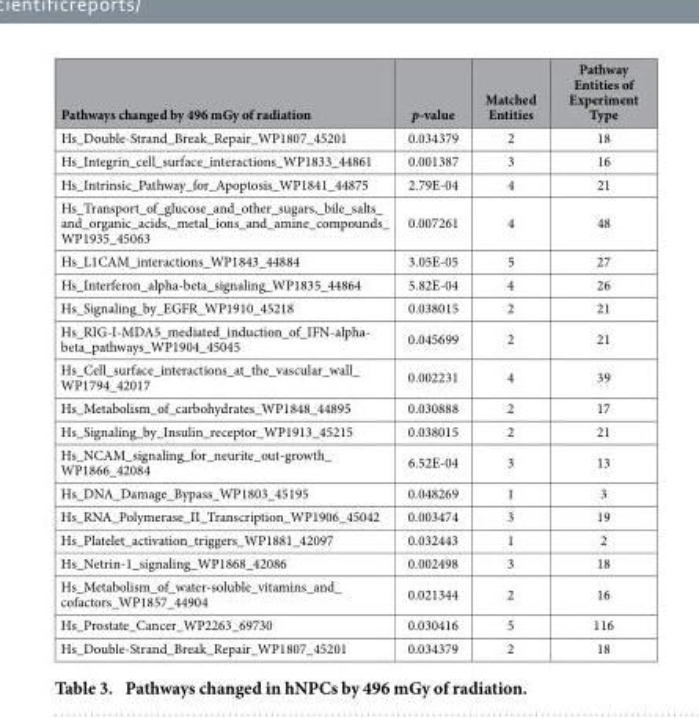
<table><thead><tr><td>Pathways changed by 496 mGy of radiation</td><td>p-value</td><td>Matched Entities</td><td>Pathway Entities of Experiment Type</td></tr></thead><tbody><tr><td>Hs_Double-Strand_Break_Repair_WP1807_45201</td><td>0.034379</td><td>2</td><td>18</td></tr><tr><td>Hs_Integrin_cell_surface_interactions_WP1833_44861</td><td>0.001387</td><td>3</td><td>16</td></tr><tr><td>Hs_Intrinsic_Pathway_for_Apoptosis_WP1841_44875</td><td>2.79E-04</td><td>4</td><td>21</td></tr><tr><td>Hs_Transport_of_glucose_and_other_sugars,_bile_salts_ and_organic_acids,_metal_ions_and_amine_compounds_ WP1935_45063</td><td>0.007261</td><td>4</td><td>48</td></tr><tr><td>Hs_L1CAM_interactions_WP1843_44884</td><td>3.05E-05</td><td>5</td><td>27</td></tr><tr><td>Hs_Interferon_alpha-beta_signaling_WP1835_44864</td><td>5.82E-04</td><td>4</td><td>26</td></tr><tr><td>Hs_Signaling_by_EGFR_WP1910_45218</td><td>0.038015</td><td>2</td><td>21</td></tr><tr><td>Hs_RIG-I-MDA5_mediated_induction_of_IFN-alpha- beta_pathways_WP1904_45045</td><td>0.045699</td><td>2</td><td>21</td></tr><tr><td>Hs_Cell_surface_interactions_at_the_vascular_wall_ WP1794_42017</td><td>0.002231</td><td>4</td><td>39</td></tr><tr><td>Hs_Metabolism_of_carbohydrates_WP1848_44895</td><td>0.030888</td><td>2</td><td>17</td></tr><tr><td>Hs_Signaling_by_Insulin_receptor_WP1913_45215</td><td>0.038015</td><td>2</td><td>21</td></tr><tr><td>Hs_NCAM_signaling_for_neurite_out-growth_ WP1866_42084</td><td>6.52E-04</td><td>3</td><td>13</td></tr><tr><td>Hs_DNA_Damage_Bypass_WP1803_45195</td><td>0.048269</td><td>1</td><td>3</td></tr><tr><td>Hs_RNA_Polymerase_II_Transcription_WP1906_45042</td><td>0.003474</td><td>3</td><td>19</td></tr><tr><td>Hs_Platelet_activation_triggers_WP1881_42097</td><td>0.032443</td><td>1</td><td>2</td></tr><tr><td>Hs_Netrin-1_signaling_WP1868_42086</td><td>0.002498</td><td>3</td><td>18</td></tr><tr><td>Hs_Metabolism_of_water-soluble_vitamins_and_ cofactors_WP1857_44904</td><td>0.021344</td><td>2</td><td>16</td></tr><tr><td>Hs_Prostate_Cancer_WP2263_69730</td><td>0.030416</td><td>5</td><td>116</td></tr><tr><td>Hs_Double-Strand_Break_Repair_WP1807_45201</td><td>0.034379</td><td>2</td><td>18</td></tr></tbody></table>